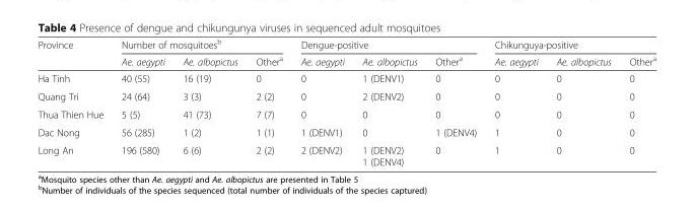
<table><thead><tr><td rowspan="2">Province</td><td colspan="3">Number of mosquitoes<sup>b</sup></td><td colspan="3">Dengue-positive</td><td colspan="3">Chikunguya-positive</td></tr><tr><td>Ae. aegypti</td><td>Ae. albopictus</td><td>Other<sup>a</sup></td><td>Ae. aegypti</td><td>Ae. albopictus</td><td>Other<sup>a</sup></td><td>Ae. aegypti</td><td>Ae. albopictus</td><td>Other<sup>a</sup></td></tr></thead><tbody><tr><td>Ha Tinh</td><td>40 (55)</td><td>16 (19)</td><td>0</td><td>0</td><td>1 (DENV1)</td><td>0</td><td>0</td><td>0</td><td>0</td></tr><tr><td>Quang Tri</td><td>24 (64)</td><td>3 (3)</td><td>2 (2)</td><td>0</td><td>2 (DENV2)</td><td>0</td><td>0</td><td>0</td><td>0</td></tr><tr><td>Thua Thien Hue</td><td>5 (5)</td><td>41 (73)</td><td>7 (7)</td><td>0</td><td>0</td><td>0</td><td>0</td><td>0</td><td>0</td></tr><tr><td>Dac Nong</td><td>56 (285)</td><td>1 (2)</td><td>1 (1)</td><td>1 (DENV1)</td><td>0</td><td>1 (DENV4)</td><td>1</td><td>0</td><td>0</td></tr><tr><td>Long An</td><td>196 (580)</td><td>6 (6)</td><td>2 (2)</td><td>2 (DENV2)</td><td>1 (DENV2) 1 (DENV4)</td><td>0</td><td>1</td><td>0</td><td>0</td></tr></tbody></table>